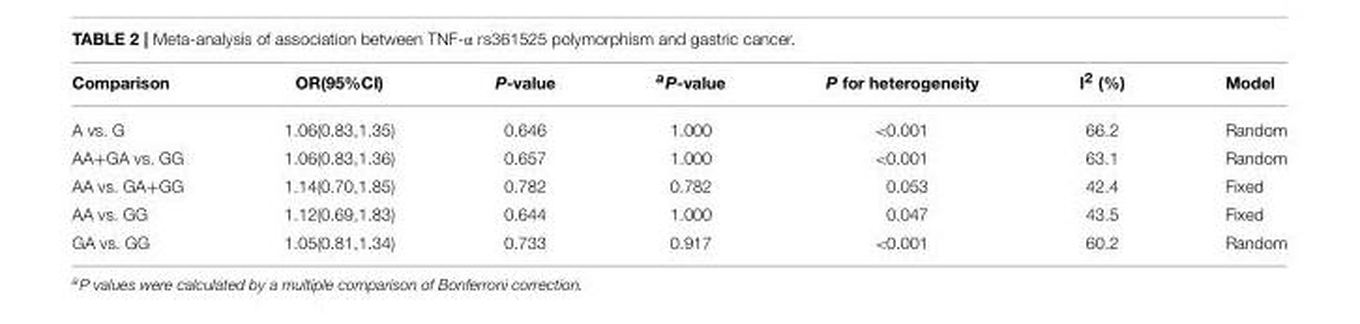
<table><thead><tr><td>Comparison</td><td>OR(95%CI)</td><td>P-value</td><td><sup>a</sup>P-value</td><td>P for heterogeneity</td><td>I<sup>2</sup> (%)</td><td>Model</td></tr></thead><tbody><tr><td>A vs. G</td><td>1.06(0.83,1.35)</td><td>0.646</td><td>1.000</td><td>&lt;0.001</td><td>66.2</td><td>Random</td></tr><tr><td>AA+GA vs. GG</td><td>1.06(0.83,1.36)</td><td>0.657</td><td>1.000</td><td>&lt;0.001</td><td>63.1</td><td>Random</td></tr><tr><td>AA vs. GA+GG</td><td>1.14(0.70,1.85)</td><td>0.782</td><td>0.782</td><td>0.053</td><td>42.4</td><td>Fixed</td></tr><tr><td>AA vs. GG</td><td>1.12(0.69,1.83)</td><td>0.644</td><td>1.000</td><td>0.047</td><td>43.5</td><td>Fixed</td></tr><tr><td>GA vs. GG</td><td>1.05(0.81,1.34)</td><td>0.733</td><td>0.917</td><td>&lt;0.001</td><td>60.2</td><td>Random</td></tr></tbody></table>